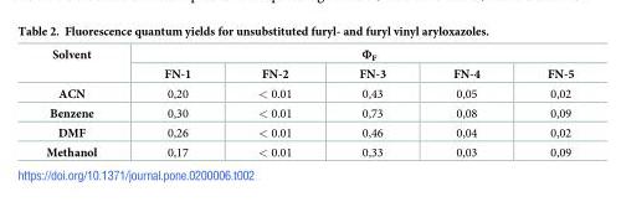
<table><thead><tr><td rowspan="2">Solvent</td><td colspan="5">Ф<sub>F</sub></td></tr><tr><td>FN-1</td><td>FN-2</td><td>FN-3</td><td>FN-4</td><td>FN-5</td></tr></thead><tbody><tr><td>ACN</td><td>0,20</td><td>&lt; 0.01</td><td>0,43</td><td>0,05</td><td>0,02</td></tr><tr><td>Benzene</td><td>0,30</td><td>&lt; 0.01</td><td>0,73</td><td>0,08</td><td>0,09</td></tr><tr><td>DMF</td><td>0,26</td><td>&lt; 0.01</td><td>0,46</td><td>0,04</td><td>0,02</td></tr><tr><td>Methanol</td><td>0,17</td><td>&lt; 0.01</td><td>0,33</td><td>0,03</td><td>0,09</td></tr></tbody></table>